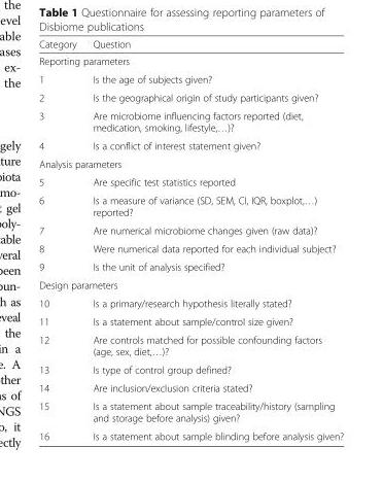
<table><thead><tr><td>Category</td><td>Question</td></tr></thead><tbody><tr><td colspan="2">Reporting parameters</td></tr><tr><td>1</td><td>Is the age of subjects given?</td></tr><tr><td>2</td><td>Is the geographical origin of study participants given?</td></tr><tr><td>3</td><td>Are microbiome influencing factors reported (diet, medication, smoking, lifestyle,…)?</td></tr><tr><td>4</td><td>Is a conflict of interest statement given?</td></tr><tr><td colspan="2">Analysis parameters</td></tr><tr><td>5</td><td>Are specific test statistics reported</td></tr><tr><td>6</td><td>Is a measure of variance (SD, SEM, CI, IQR, boxplot,…) reported?</td></tr><tr><td>7</td><td>Are numerical microbiome changes given (raw data)?</td></tr><tr><td>8</td><td>Were numerical data reported for each individual subject?</td></tr><tr><td>9</td><td>Is the unit of analysis specified?</td></tr><tr><td colspan="2">Design parameters</td></tr><tr><td>10</td><td>Is a primary/research hypothesis literally stated?</td></tr><tr><td>11</td><td>Is a statement about sample/control size given?</td></tr><tr><td>12</td><td>Are controls matched for possible confounding factors (age, sex, diet,…)?</td></tr><tr><td>13</td><td>Is type of control group defined?</td></tr><tr><td>14</td><td>Are inclusion/exclusion criteria stated?</td></tr><tr><td>15</td><td>Is a statement about sample traceability/history (sampling and storage before analysis) given?</td></tr><tr><td>16</td><td>Is a statement about sample blinding before analysis given?</td></tr></tbody></table>